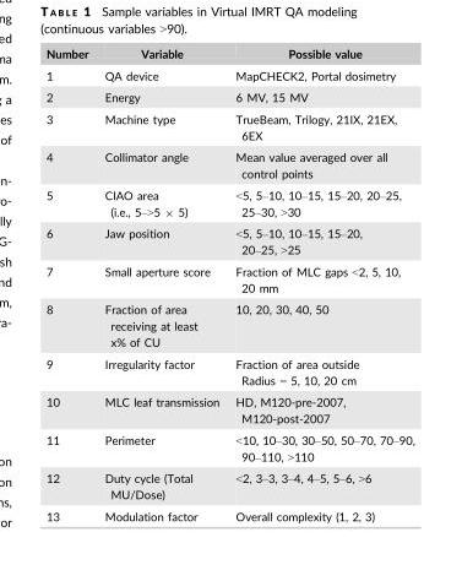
<table><thead><tr><td>Number</td><td>Variable</td><td>Possible value</td></tr></thead><tbody><tr><td>1</td><td>QA device</td><td>MapCHECK2, Portal dosimetry</td></tr><tr><td>2</td><td>Energy</td><td>6 MV, 15 MV</td></tr><tr><td>3</td><td>Machine type</td><td>TrueBeam, Trilogy, 21IX, 21EX, 6EX</td></tr><tr><td>4</td><td>Collimator angle</td><td>Mean value averaged over all control points</td></tr><tr><td>5</td><td>CIAO area (i.e., 5–&gt;5 × 5)</td><td>&lt;5, 5–10, 10–15, 15–20, 20–25, 25–30, &gt;30</td></tr><tr><td>6</td><td>Jaw position</td><td>&lt;5, 5–10, 10–15, 15–20, 20–25, &gt;25</td></tr><tr><td>7</td><td>Small aperture score</td><td>Fraction of MLC gaps &lt;2, 5, 10, 20 mm</td></tr><tr><td>8</td><td>Fraction of area receiving at least x% of CU</td><td>10, 20, 30, 40, 50</td></tr><tr><td>9</td><td>Irregularity factor</td><td>Fraction of area outside Radius = 5, 10, 20 cm</td></tr><tr><td>10</td><td>MLC leaf transmission</td><td>HD, M120-pre-2007, M120-post-2007</td></tr><tr><td>11</td><td>Perimeter</td><td>&lt;10, 10–30, 30–50, 50–70, 70–90, 90–110, &gt;110</td></tr><tr><td>12</td><td>Duty cycle (Total MU/Dose)</td><td>&lt;2, 3–3, 3–4, 4–5, 5–6, &gt;6</td></tr><tr><td>13</td><td>Modulation factor</td><td>Overall complexity (1, 2, 3)</td></tr></tbody></table>